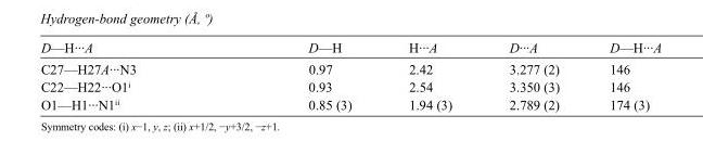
<table><tbody><tr><td>D—H···A</td><td>D—H</td><td>H···A</td><td>D···A</td><td>D—H···A</td></tr><tr><td>C27—H27A···N3</td><td>0.97</td><td>2.42</td><td>3.277 (2)</td><td>146</td></tr><tr><td>C22—H22···O1<sup>i</sup></td><td>0.93</td><td>2.54</td><td>3.350 (3)</td><td>146</td></tr><tr><td>O1—H1···N1<sup>ii</sup></td><td>0.85 (3)</td><td>1.94 (3)</td><td>2.789 (2)</td><td>174 (3)</td></tr></tbody></table>